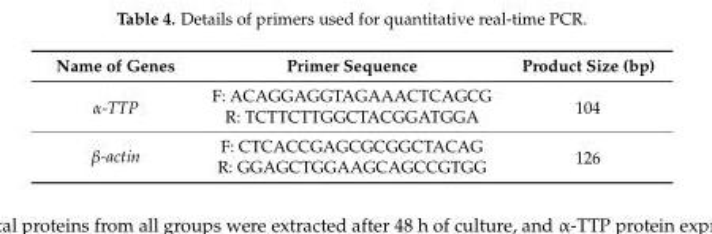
<table><thead><tr><td>Name of Genes</td><td>Primer Sequence</td><td>Product Size (bp)</td></tr></thead><tbody><tr><td rowspan="2">α-TTP</td><td>F: ACAGGAGGTAGAAACTCAGCG</td><td rowspan="2">104</td></tr><tr><td>R: TCTTCTTGGCTACGGATGGA</td></tr><tr><td rowspan="2">β-actin</td><td>F: CTCACCGAGCGCGGCTACAG</td><td rowspan="2">126</td></tr><tr><td>R: GGAGCTGGAAGCAGCCGTGG</td></tr></tbody></table>